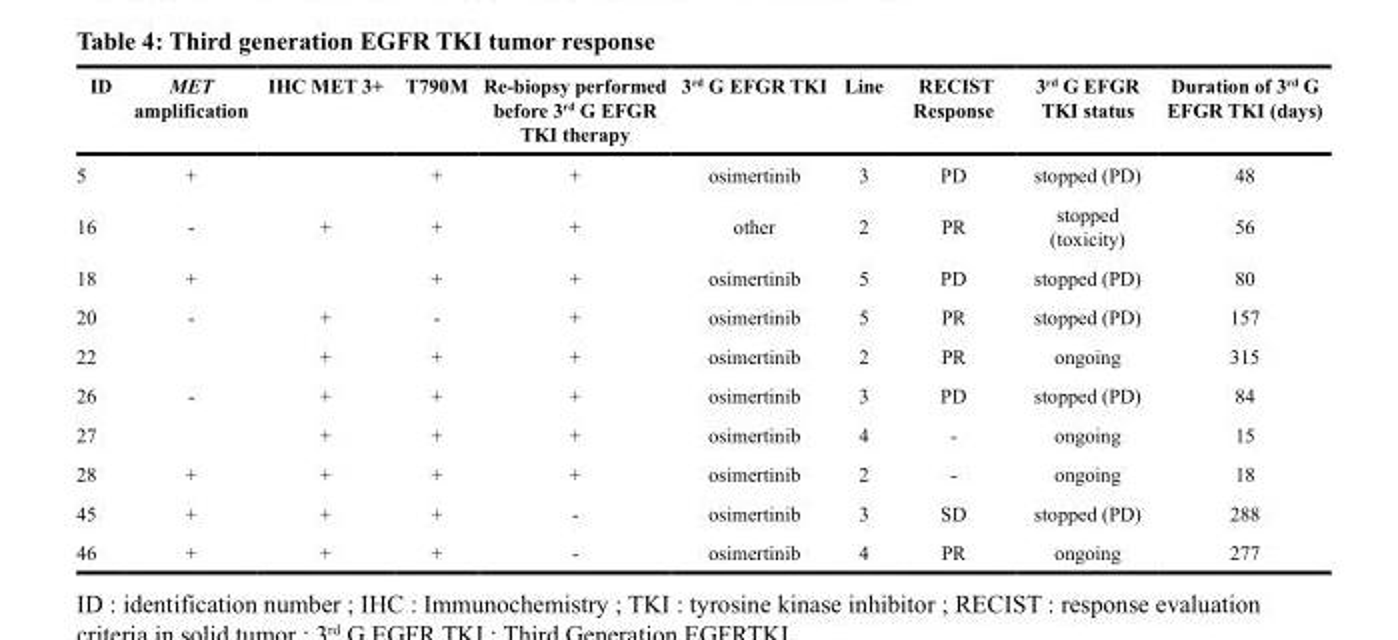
<table><thead><tr><td>ID</td><td>MET amplification</td><td>IHC MET 3+</td><td>T790M</td><td>Re-biopsy performed before 3<sup>rd</sup> G EFGR TKI therapy</td><td>3<sup>rd</sup> G EFGR TKI</td><td>Line</td><td>RECIST Response</td><td>3<sup>rd</sup> G EFGR TKI status</td><td>Duration of 3<sup>rd</sup> G EFGR TKI (days)</td></tr></thead><tbody><tr><td>5</td><td>+</td><td></td><td>+</td><td>+</td><td>osimertinib</td><td>3</td><td>PD</td><td>stopped (PD)</td><td>48</td></tr><tr><td>16</td><td>-</td><td>+</td><td>+</td><td>+</td><td>other</td><td>2</td><td>PR</td><td>stopped (toxicity)</td><td>56</td></tr><tr><td>18</td><td>+</td><td></td><td>+</td><td>+</td><td>osimertinib</td><td>5</td><td>PD</td><td>stopped (PD)</td><td>80</td></tr><tr><td>20</td><td>-</td><td>+</td><td>-</td><td>+</td><td>osimertinib</td><td>5</td><td>PR</td><td>stopped (PD)</td><td>157</td></tr><tr><td>22</td><td></td><td>+</td><td>+</td><td>+</td><td>osimertinib</td><td>2</td><td>PR</td><td>ongoing</td><td>315</td></tr><tr><td>26</td><td>-</td><td>+</td><td>+</td><td>+</td><td>osimertinib</td><td>3</td><td>PD</td><td>stopped (PD)</td><td>84</td></tr><tr><td>27</td><td></td><td>+</td><td>+</td><td>+</td><td>osimertinib</td><td>4</td><td>-</td><td>ongoing</td><td>15</td></tr><tr><td>28</td><td>+</td><td>+</td><td>+</td><td>+</td><td>osimertinib</td><td>2</td><td>-</td><td>ongoing</td><td>18</td></tr><tr><td>45</td><td>+</td><td>+</td><td>+</td><td>-</td><td>osimertinib</td><td>3</td><td>SD</td><td>stopped (PD)</td><td>288</td></tr><tr><td>46</td><td>+</td><td>+</td><td>+</td><td>-</td><td>osimertinib</td><td>4</td><td>PR</td><td>ongoing</td><td>277</td></tr></tbody></table>